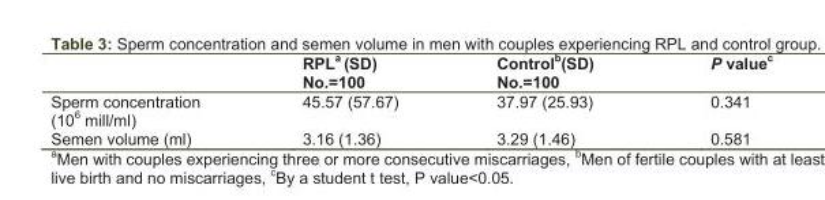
<table><thead><tr><td></td><td>RPLa (SD) No.=100</td><td>Controlb(SD) No.=100</td><td>P valuec</td></tr></thead><tbody><tr><td>Sperm concentration (10<sup>6</sup> mill/ml)</td><td>45.57 (57.67)</td><td>37.97 (25.93)</td><td>0.341</td></tr><tr><td>Semen volume (ml)</td><td>3.16 (1.36)</td><td>3.29 (1.46)</td><td>0.581</td></tr></tbody></table>